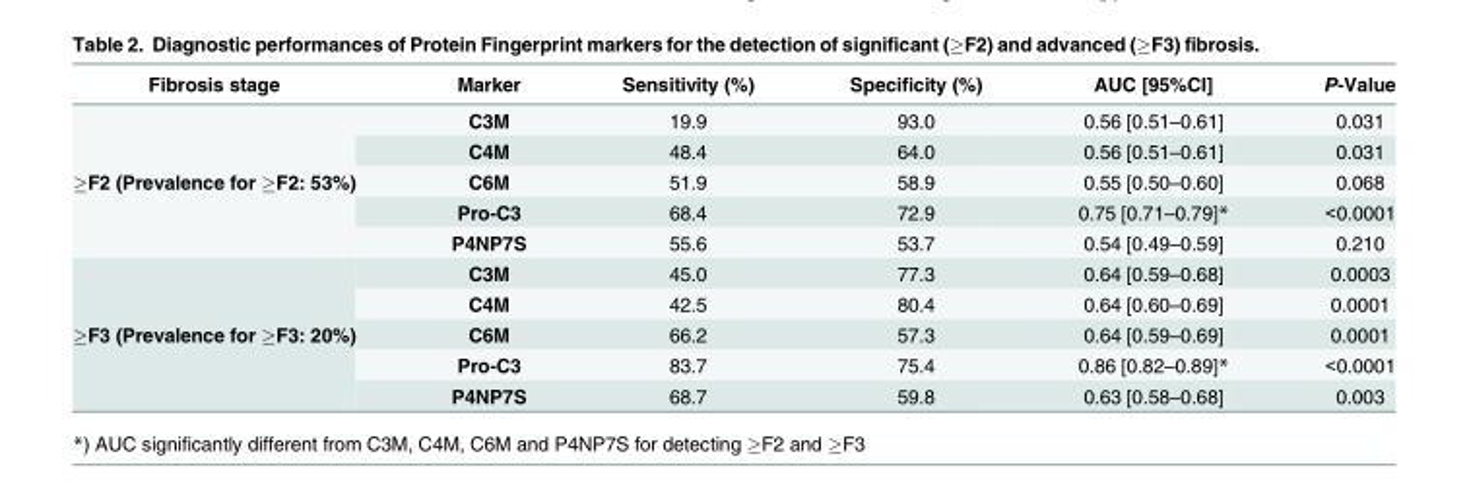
<table><thead><tr><td>Fibrosis stage</td><td>Marker</td><td>Sensitivity (%)</td><td>Specificity (%)</td><td>AUC [95%CI]</td><td>P-Value</td></tr></thead><tbody><tr><td rowspan="5">≥F2 (Prevalence for ≥F2: 53%)</td><td>C3M</td><td>19.9</td><td>93.0</td><td>0.56 [0.51–0.61]</td><td>0.031</td></tr><tr><td>C4M</td><td>48.4</td><td>64.0</td><td>0.56 [0.51–0.61]</td><td>0.031</td></tr><tr><td>C6M</td><td>51.9</td><td>58.9</td><td>0.55 [0.50–0.60]</td><td>0.068</td></tr><tr><td>Pro-C3</td><td>68.4</td><td>72.9</td><td>0.75 [0.71–0.79]*</td><td>&lt;0.0001</td></tr><tr><td>P4NP7S</td><td>55.6</td><td>53.7</td><td>0.54 [0.49–0.59]</td><td>0.210</td></tr><tr><td rowspan="5">≥F3 (Prevalence for ≥F3: 20%)</td><td>C3M</td><td>45.0</td><td>77.3</td><td>0.64 [0.59–0.68]</td><td>0.0003</td></tr><tr><td>C4M</td><td>42.5</td><td>80.4</td><td>0.64 [0.60–0.69]</td><td>0.0001</td></tr><tr><td>C6M</td><td>66.2</td><td>57.3</td><td>0.64 [0.59–0.69]</td><td>0.0001</td></tr><tr><td>Pro-C3</td><td>83.7</td><td>75.4</td><td>0.86 [0.82–0.89]*</td><td>&lt;0.0001</td></tr><tr><td>P4NP7S</td><td>68.7</td><td>59.8</td><td>0.63 [0.58–0.68]</td><td>0.003</td></tr></tbody></table>